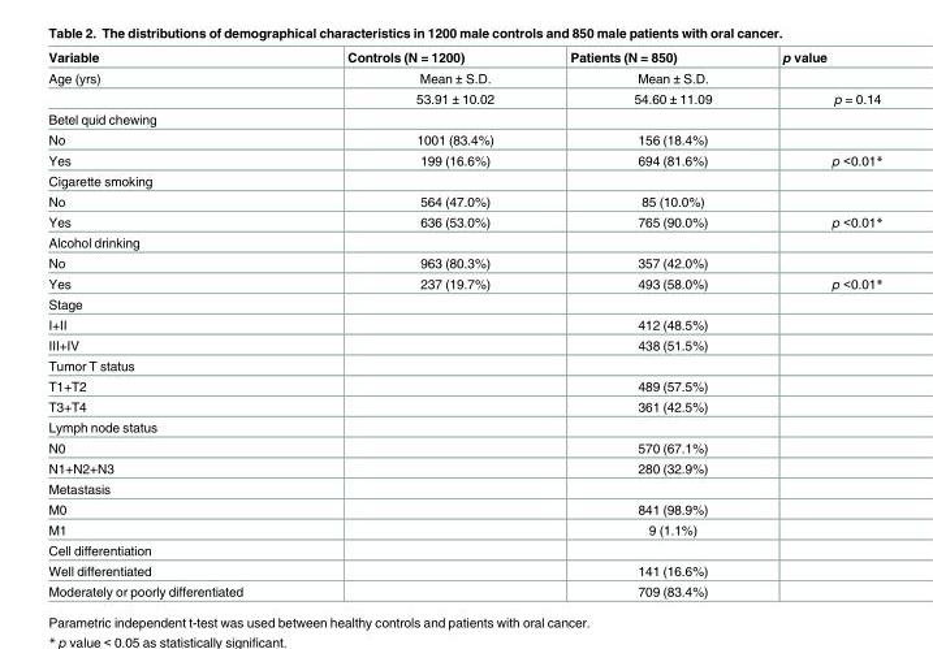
<table><thead><tr><td>Variable</td><td>Controls (N = 1200)</td><td>Patients (N = 850)</td><td>p value</td></tr></thead><tbody><tr><td rowspan="2">Age (yrs)</td><td>Mean ± S.D.</td><td>Mean ± S.D.</td><td></td></tr><tr><td>53.91 ± 10.02</td><td>54.60 ± 11.09</td><td>p = 0.14</td></tr><tr><td colspan="4">Betel quid chewing</td></tr><tr><td>No</td><td>1001 (83.4%)</td><td>156 (18.4%)</td><td></td></tr><tr><td>Yes</td><td>199 (16.6%)</td><td>694 (81.6%)</td><td>p &lt;0.01*</td></tr><tr><td colspan="4">Cigarette smoking</td></tr><tr><td>No</td><td>564 (47.0%)</td><td>85 (10.0%)</td><td></td></tr><tr><td>Yes</td><td>636 (53.0%)</td><td>765 (90.0%)</td><td>p &lt;0.01*</td></tr><tr><td colspan="4">Alcohol drinking</td></tr><tr><td>No</td><td>963 (80.3%)</td><td>357 (42.0%)</td><td></td></tr><tr><td>Yes</td><td>237 (19.7%)</td><td>493 (58.0%)</td><td>p &lt;0.01*</td></tr><tr><td colspan="4">Stage</td></tr><tr><td>I+II</td><td></td><td>412 (48.5%)</td><td></td></tr><tr><td>III+IV</td><td></td><td>438 (51.5%)</td><td></td></tr><tr><td colspan="4">Tumor T status</td></tr><tr><td>T1+T2</td><td></td><td>489 (57.5%)</td><td></td></tr><tr><td>T3+T4</td><td></td><td>361 (42.5%)</td><td></td></tr><tr><td colspan="4">Lymph node status</td></tr><tr><td>N0</td><td></td><td>570 (67.1%)</td><td></td></tr><tr><td>N1+N2+N3</td><td></td><td>280 (32.9%)</td><td></td></tr><tr><td colspan="4">Metastasis</td></tr><tr><td>M0</td><td></td><td>841 (98.9%)</td><td></td></tr><tr><td>M1</td><td></td><td>9 (1.1%)</td><td></td></tr><tr><td colspan="4">Cell differentiation</td></tr><tr><td>Well differentiated</td><td></td><td>141 (16.6%)</td><td></td></tr><tr><td>Moderately or poorly differentiated</td><td></td><td>709 (83.4%)</td><td></td></tr></tbody></table>